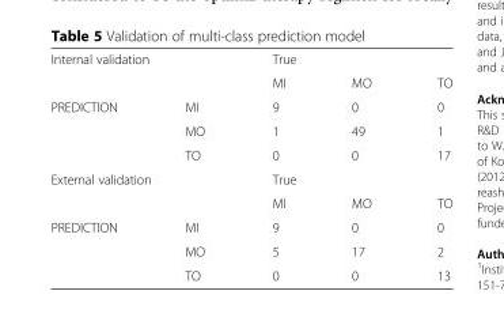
<table><tbody><tr><td colspan="2">Internal validation</td><td colspan="3">True</td></tr><tr><td></td><td></td><td>MI</td><td>MO</td><td>TO</td></tr><tr><td rowspan="3">PREDICTION</td><td>MI</td><td>9</td><td>0</td><td>0</td></tr><tr><td>MO</td><td>1</td><td>49</td><td>1</td></tr><tr><td>TO</td><td>0</td><td>0</td><td>17</td></tr><tr><td colspan="2">External validation</td><td colspan="3">True</td></tr><tr><td></td><td></td><td>MI</td><td>MO</td><td>TO</td></tr><tr><td rowspan="3">PREDICTION</td><td>MI</td><td>9</td><td>0</td><td>0</td></tr><tr><td>MO</td><td>5</td><td>17</td><td>2</td></tr><tr><td>TO</td><td>0</td><td>0</td><td>13</td></tr></tbody></table>